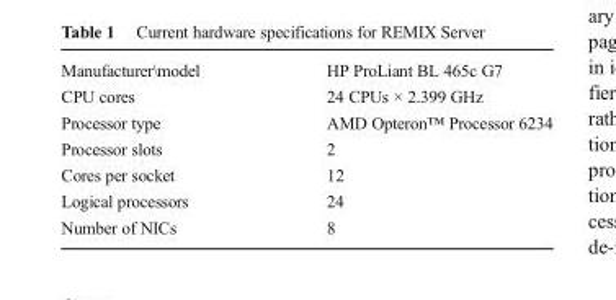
<table><tbody><tr><td>Manufacturer\model</td><td>HP ProLiant BL 465c G7</td></tr><tr><td>CPU cores</td><td>24 CPUs × 2.399 GHz</td></tr><tr><td>Processor type</td><td>AMD Opteron™ Processor 6234</td></tr><tr><td>Processor slots</td><td>2</td></tr><tr><td>Cores per socket</td><td>12</td></tr><tr><td>Logical processors</td><td>24</td></tr><tr><td>Number of NICs</td><td>8</td></tr></tbody></table>